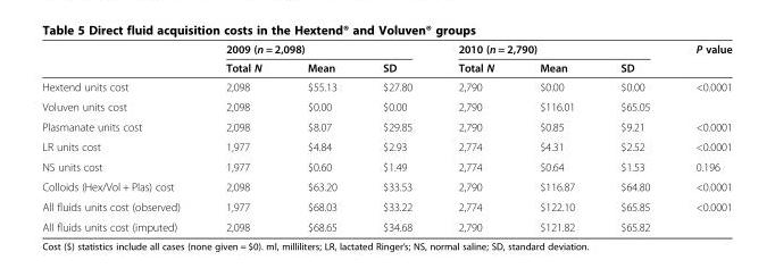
<table><thead><tr><td rowspan="2"></td><td colspan="3">2009 (n = 2,098)</td><td colspan="3">2010 (n = 2,790)</td><td rowspan="2">P value</td></tr><tr><td>Total N</td><td>Mean</td><td>SD</td><td>Total N</td><td>Mean</td><td>SD</td></tr></thead><tbody><tr><td>Hextend units cost</td><td>2,098</td><td>$55.13</td><td>$27.80</td><td>2,790</td><td>$0.00</td><td>$0.00</td><td rowspan="2">&lt;0.0001</td></tr><tr><td>Voluven units cost</td><td>2,098</td><td>$0.00</td><td>$0.00</td><td>2,790</td><td>$116.01</td><td>$65.05</td></tr><tr><td>Plasmanate units cost</td><td>2,098</td><td>$8.07</td><td>$29.85</td><td>2,790</td><td>$0.85</td><td>$9.21</td><td>&lt;0.0001</td></tr><tr><td>LR units cost</td><td>1,977</td><td>$4.84</td><td>$2.93</td><td>2,774</td><td>$4.31</td><td>$2.52</td><td>&lt;0.0001</td></tr><tr><td>NS units cost</td><td>1,977</td><td>$0.60</td><td>$1.49</td><td>2,774</td><td>$0.64</td><td>$1.53</td><td>0.196</td></tr><tr><td>Colloids (Hex/Vol + Plas) cost</td><td>2,098</td><td>$63.20</td><td>$33.53</td><td>2,790</td><td>$116.87</td><td>$64.80</td><td>&lt;0.0001</td></tr><tr><td>All fluids units cost (observed)</td><td>1,977</td><td>$68.03</td><td>$33.22</td><td>2,774</td><td>$122.10</td><td>$65.85</td><td>&lt;0.0001</td></tr><tr><td>All fluids units cost (imputed)</td><td>2,098</td><td>$68.65</td><td>$34.68</td><td>2,790</td><td>$121.82</td><td>$65.82</td><td></td></tr></tbody></table>